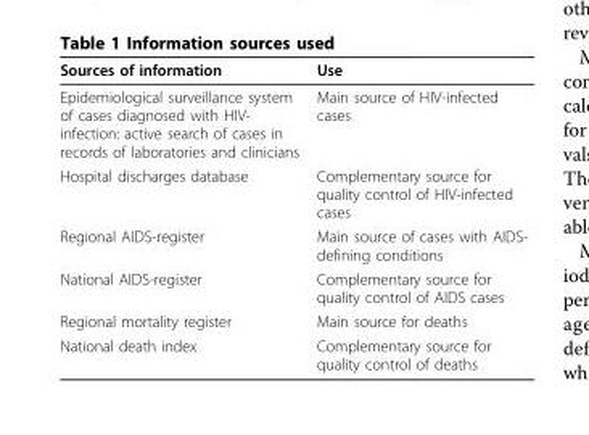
<table><thead><tr><td>Sources of information</td><td>Use</td></tr></thead><tbody><tr><td>Epidemiological surveillance system of cases diagnosed with HIV- infection: active search of cases in records of laboratories and clinicians</td><td>Main source of HIV-infected cases</td></tr><tr><td>Hospital discharges database</td><td>Complementary source for quality control of HIV-infected cases</td></tr><tr><td>Regional AIDS-register</td><td>Main source of cases with AIDS- defining conditions</td></tr><tr><td>National AIDS-register</td><td>Complementary source for quality control of AIDS cases</td></tr><tr><td>Regional mortality register</td><td>Main source for deaths</td></tr><tr><td>National death index</td><td>Complementary source for quality control of deaths</td></tr></tbody></table>